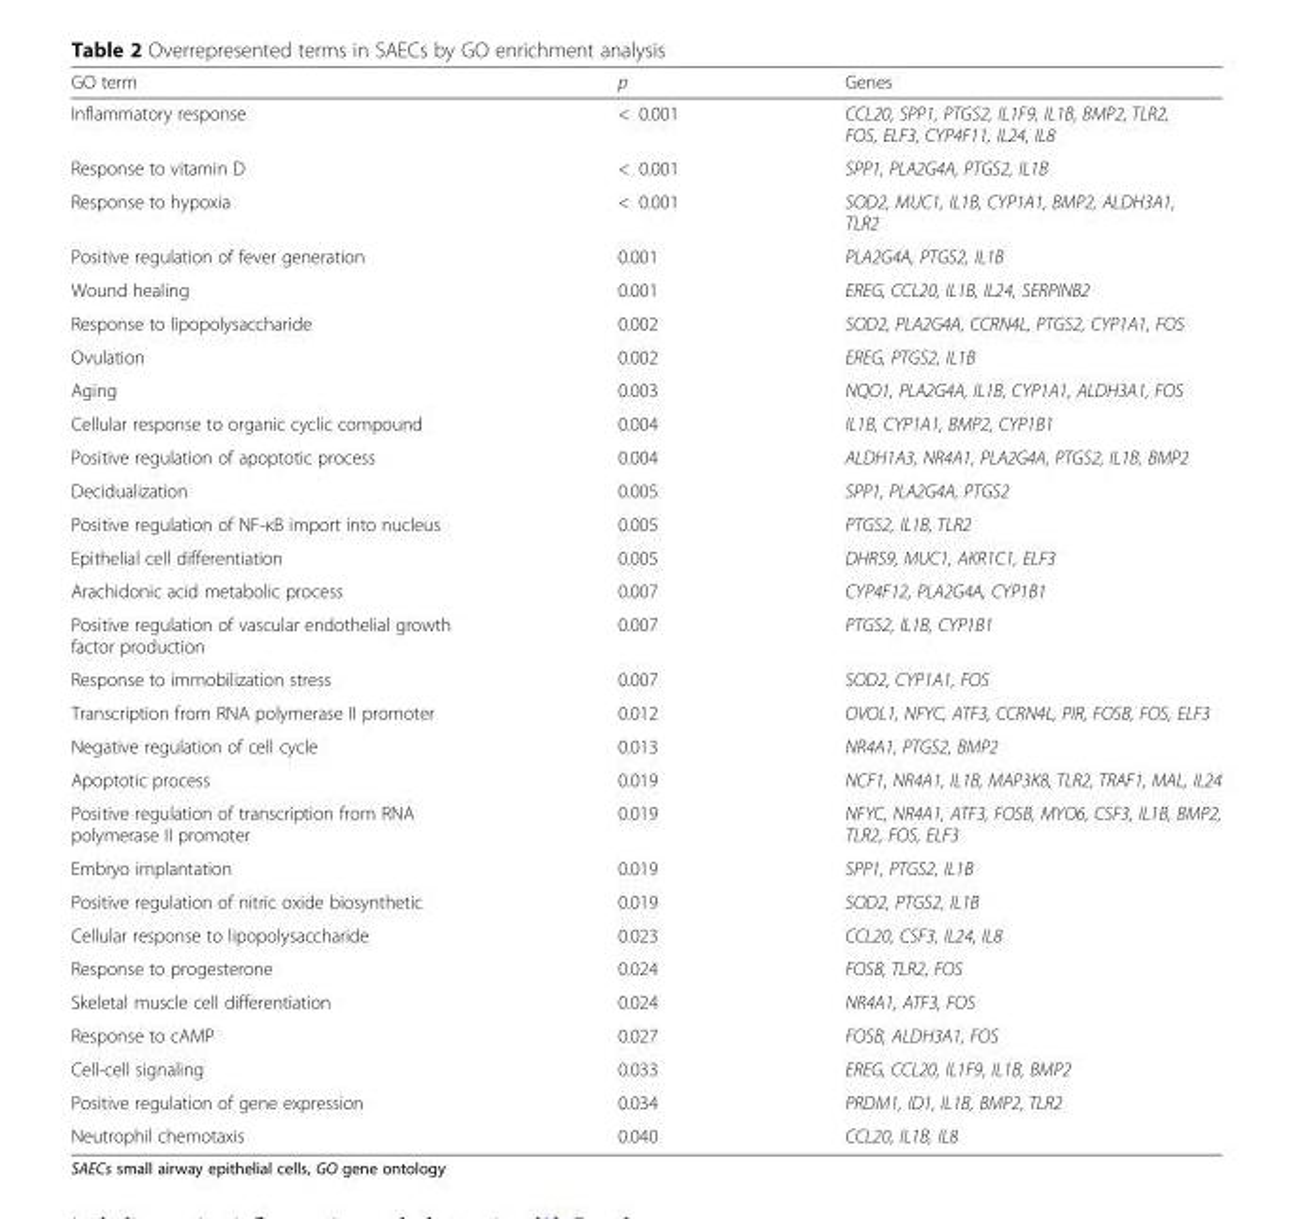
<table><thead><tr><td>GO term</td><td>p</td><td>Genes</td></tr></thead><tbody><tr><td>Inflammatory response</td><td>&lt; 0.001</td><td>CCL20, SPP1, PTGS2, IL1F9, IL1B, BMP2, TLR2, FOS, ELF3, CYP4F11, IL24, IL8</td></tr><tr><td>Response to vitamin D</td><td>&lt; 0.001</td><td>SPP1, PLA2G4A, PTGS2, IL1B</td></tr><tr><td>Response to hypoxia</td><td>&lt; 0.001</td><td>SOD2, MUC1, IL1B, CYP1A1, BMP2, ALDH3A1, TLR2</td></tr><tr><td>Positive regulation of fever generation</td><td>0.001</td><td>PLA2G4A, PTGS2, IL1B</td></tr><tr><td>Wound healing</td><td>0.001</td><td>EREG, CCL20, IL1B, IL24, SERPINB2</td></tr><tr><td>Response to lipopolysaccharide</td><td>0.002</td><td>SOD2, PLA2G4A, CCRN4L, PTGS2, CYP1A1, FOS</td></tr><tr><td>Ovulation</td><td>0.002</td><td>EREG, PTGS2, IL1B</td></tr><tr><td>Aging</td><td>0.003</td><td>NQO1, PLA2G4A, IL1B, CYP1A1, ALDH3A1, FOS</td></tr><tr><td>Cellular response to organic cyclic compound</td><td>0.004</td><td>IL1B, CYP1A1, BMP2, CYP1B1</td></tr><tr><td>Positive regulation of apoptotic process</td><td>0.004</td><td>ALDH1A3, NR4A1, PLA2G4A, PTGS2, IL1B, BMP2</td></tr><tr><td>Decidualization</td><td>0.005</td><td>SPP1, PLA2G4A, PTGS2</td></tr><tr><td>Positive regulation of NF-κB import into nucleus</td><td>0.005</td><td>PTGS2, IL1B, TLR2</td></tr><tr><td>Epithelial cell differentiation</td><td>0.005</td><td>DHRS9, MUC1, AKR1C1, ELF3</td></tr><tr><td>Arachidonic acid metabolic process</td><td>0.007</td><td>CYP4F12, PLA2G4A, CYP1B1</td></tr><tr><td>Positive regulation of vascular endothelial growth factor production</td><td>0.007</td><td>PTGS2, IL1B, CYP1B1</td></tr><tr><td>Response to immobilization stress</td><td>0.007</td><td>SOD2, CYP1A1, FOS</td></tr><tr><td>Transcription from RNA polymerase II promoter</td><td>0.012</td><td>OVOL1, NFYC, ATF3, CCRN4L, PIR, FOSB, FOS, ELF3</td></tr><tr><td>Negative regulation of cell cycle</td><td>0.013</td><td>NR4A1, PTGS2, BMP2</td></tr><tr><td>Apoptotic process</td><td>0.019</td><td>NCF1, NR4A1, IL1B, MAP3K8, TLR2, TRAF1, MAL, IL24</td></tr><tr><td>Positive regulation of transcription from RNA polymerase II promoter</td><td>0.019</td><td>NFYC, NR4A1, ATF3, FOSB, MYO6, CSF3, IL1B, BMP2, TLR2, FOS, ELF3</td></tr><tr><td>Embryo implantation</td><td>0.019</td><td>SPP1, PTGS2, IL1B</td></tr><tr><td>Positive regulation of nitric oxide biosynthetic</td><td>0.019</td><td>SOD2, PTGS2, IL1B</td></tr><tr><td>Cellular response to lipopolysaccharide</td><td>0.023</td><td>CCL20, CSF3, IL24, IL8</td></tr><tr><td>Response to progesterone</td><td>0.024</td><td>FOSB, TLR2, FOS</td></tr><tr><td>Skeletal muscle cell differentiation</td><td>0.024</td><td>NR4A1, ATF3, FOS</td></tr><tr><td>Response to cAMP</td><td>0.027</td><td>FOSB, ALDH3A1, FOS</td></tr><tr><td>Cell-cell signaling</td><td>0.033</td><td>EREG, CCL20, IL1F9, IL1B, BMP2</td></tr><tr><td>Positive regulation of gene expression</td><td>0.034</td><td>PRDM1, ID1, IL1B, BMP2, TLR2</td></tr><tr><td>Neutrophil chemotaxis</td><td>0.040</td><td>CCL20, IL1B, IL8</td></tr></tbody></table>